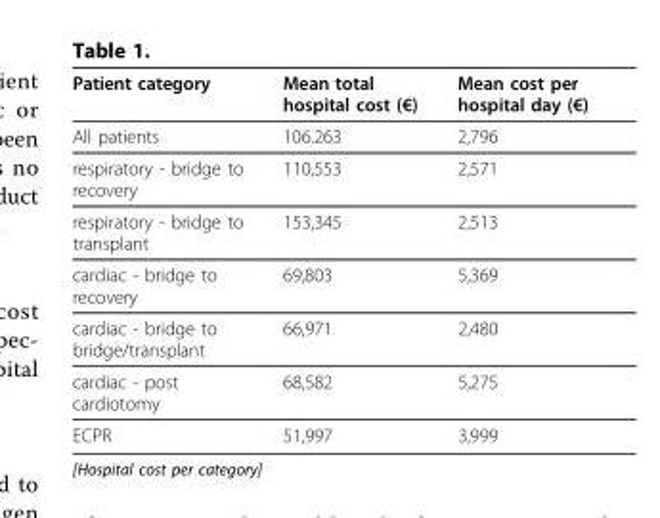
<table><thead><tr><td>Patient category</td><td>Mean total hospital cost (€)</td><td>Mean cost per hospital day (€)</td></tr></thead><tbody><tr><td>All patients</td><td>106.263</td><td>2,796</td></tr><tr><td>respiratory - bridge to recovery</td><td>110,553</td><td>2,571</td></tr><tr><td>respiratory - bridge to transplant</td><td>153,345</td><td>2,513</td></tr><tr><td>cardiac - bridge to recovery</td><td>69,803</td><td>5,369</td></tr><tr><td>cardiac - bridge to bridge/transplant</td><td>66,971</td><td>2,480</td></tr><tr><td>cardiac - post cardiotomy</td><td>68,582</td><td>5,275</td></tr><tr><td>ECPR</td><td>51,997</td><td>3,999</td></tr></tbody></table>